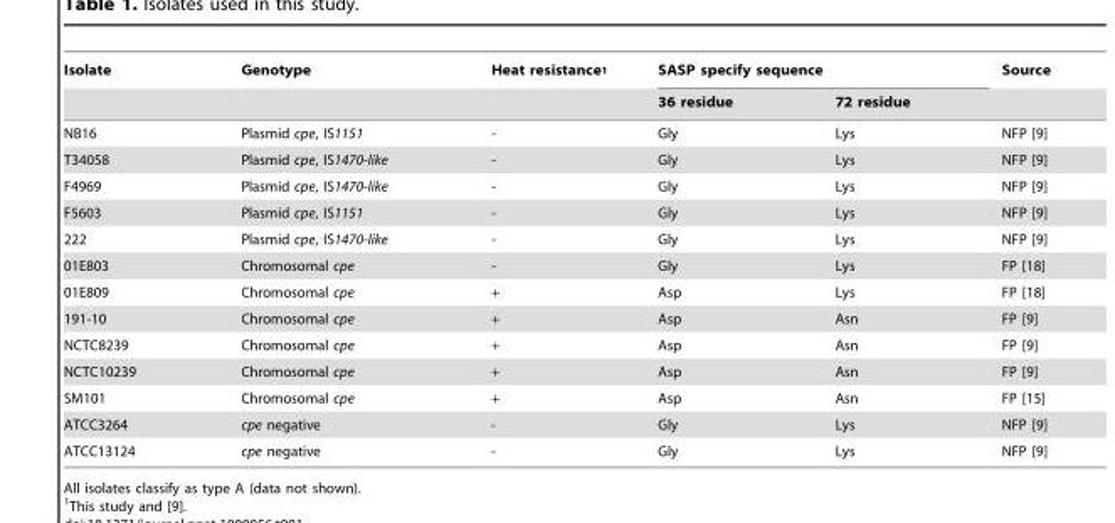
<table><thead><tr><td rowspan="2">Isolate</td><td rowspan="2">Genotype</td><td rowspan="2">Heat resistance<sup>1</sup></td><td colspan="2">SASP specify sequence</td><td rowspan="2">Source</td></tr><tr><td>36 residue</td><td>72 residue</td></tr></thead><tbody><tr><td>NB16</td><td>Plasmid cpe, IS1151</td><td>-</td><td>Gly</td><td>Lys</td><td>NFP [9]</td></tr><tr><td>T34058</td><td>Plasmid cpe, IS1470-like</td><td>-</td><td>Gly</td><td>Lys</td><td>NFP [9]</td></tr><tr><td>F4969</td><td>Plasmid cpe, IS1470-like</td><td>-</td><td>Gly</td><td>Lys</td><td>NFP [9]</td></tr><tr><td>F5603</td><td>Plasmid cpe, IS1151</td><td>-</td><td>Gly</td><td>Lys</td><td>NFP [9]</td></tr><tr><td>222</td><td>Plasmid cpe, IS1470-like</td><td>-</td><td>Gly</td><td>Lys</td><td>NFP [9]</td></tr><tr><td>01E803</td><td>Chromosomal cpe</td><td>-</td><td>Gly</td><td>Lys</td><td>FP [18]</td></tr><tr><td>01E809</td><td>Chromosomal cpe</td><td>+</td><td>Asp</td><td>Lys</td><td>FP [18]</td></tr><tr><td>191-10</td><td>Chromosomal cpe</td><td>+</td><td>Asp</td><td>Asn</td><td>FP [9]</td></tr><tr><td>NCTC8239</td><td>Chromosomal cpe</td><td>+</td><td>Asp</td><td>Asn</td><td>FP [9]</td></tr><tr><td>NCTC10239</td><td>Chromosomal cpe</td><td>+</td><td>Asp</td><td>Asn</td><td>FP [9]</td></tr><tr><td>SM101</td><td>Chromosomal cpe</td><td>+</td><td>Asp</td><td>Asn</td><td>FP [15]</td></tr><tr><td>ATCC3264</td><td>cpe negative</td><td>-</td><td>Gly</td><td>Lys</td><td>NFP [9]</td></tr><tr><td>ATCC13124</td><td>cpe negative</td><td>-</td><td>Gly</td><td>Lys</td><td>NFP [9]</td></tr></tbody></table>